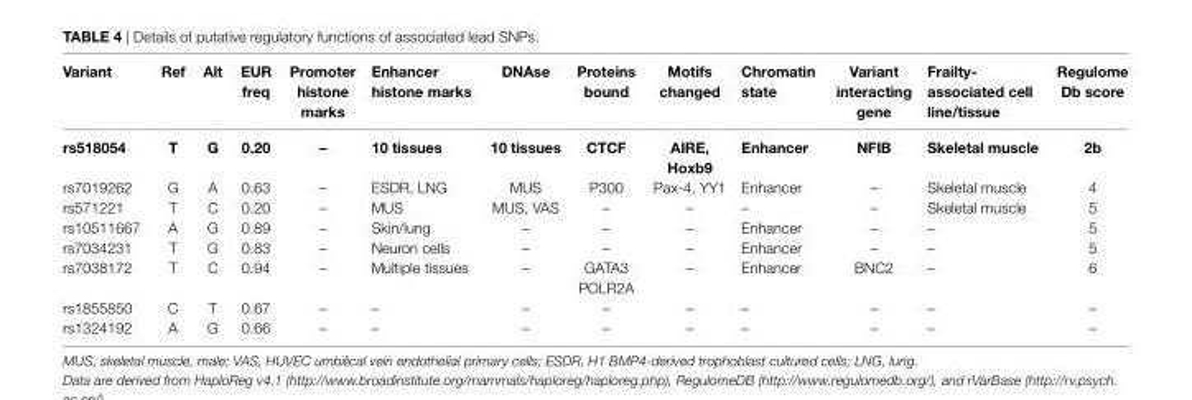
<table><thead><tr><td>Variant</td><td>ref</td><td>alt</td><td>eUr freq</td><td>Promoter histone marks</td><td>enhancer histone marks</td><td>Dnase</td><td>Proteins bound</td><td>Motifs changed</td><td>chromatin state</td><td>Variant interacting gene</td><td>Frailty- associated cell line/tissue</td><td>regulome Db score</td></tr></thead><tbody><tr><td>rs518054</td><td>T</td><td>g</td><td>0.20</td><td>–</td><td>10 tissues</td><td>10 tissues</td><td>cTcF</td><td>aire, hoxb9</td><td>enhancer</td><td>nFib</td><td>skeletal muscle</td><td>2b</td></tr><tr><td>rs7019262</td><td>G</td><td>A</td><td>0.63</td><td>–</td><td>ESDR, LNG</td><td>MUS</td><td>P300</td><td>Pax-4, YY1</td><td>Enhancer</td><td>–</td><td>Skeletal muscle</td><td>4</td></tr><tr><td>rs571221</td><td>T</td><td>C</td><td>0.20</td><td>–</td><td>MUS</td><td>MUS, VAS</td><td>–</td><td>–</td><td>–</td><td>–</td><td>Skeletal muscle</td><td>5</td></tr><tr><td>rs10511667</td><td>A</td><td>G</td><td>0.89</td><td>–</td><td>Skin/lung</td><td>–</td><td>–</td><td>–</td><td>Enhancer</td><td>–</td><td>–</td><td>5</td></tr><tr><td>rs7034231</td><td>T</td><td>G</td><td>0.83</td><td>–</td><td>Neuron cells</td><td>–</td><td>–</td><td>–</td><td>Enhancer</td><td>–</td><td>–</td><td>5</td></tr><tr><td>rs7038172</td><td>T</td><td>C</td><td>0.94</td><td>–</td><td>Multiple tissues</td><td>–</td><td>GATA3 POLR2A</td><td>–</td><td>Enhancer</td><td>BNC2</td><td>–</td><td>6</td></tr><tr><td>rs1855850</td><td>C</td><td>T</td><td>0.67</td><td>–</td><td>–</td><td>–</td><td>–</td><td>–</td><td>–</td><td>–</td><td>–</td><td>–</td></tr><tr><td>rs1324192</td><td>A</td><td>G</td><td>0.66</td><td>–</td><td>–</td><td>–</td><td>–</td><td>–</td><td>–</td><td>–</td><td>–</td><td>–</td></tr></tbody></table>